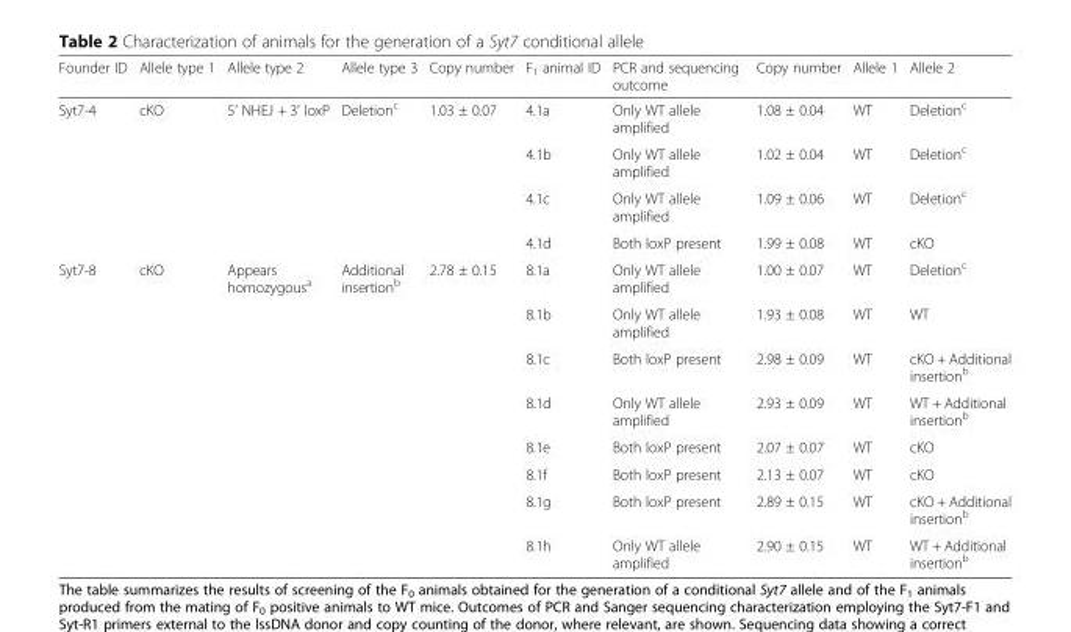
<table><thead><tr><td>Founder ID</td><td>Allele type 1</td><td>Allele type 2</td><td>Allele type 3</td><td>Copy number</td><td>F<sub>1</sub> animal ID</td><td>PCR and sequencing outcome</td><td>Copy number</td><td>Allele 1</td><td>Allele 2</td></tr></thead><tbody><tr><td rowspan="4">Syt7-4</td><td rowspan="4">cKO</td><td rowspan="4">5’ NHEJ + 3’ loxP</td><td rowspan="4">Deletion<sup>c</sup></td><td rowspan="3">1.03 ± 0.07</td><td>4.1a</td><td>Only WT allele amplified</td><td>1.08 ± 0.04</td><td>WT</td><td>Deletion<sup>c</sup></td></tr><tr><td>4.1b</td><td>Only WT allele amplified</td><td>1.02 ± 0.04</td><td>WT</td><td>Deletion<sup>c</sup></td></tr><tr><td>4.1c</td><td>Only WT allele amplified</td><td>1.09 ± 0.06</td><td>WT</td><td>Deletion<sup>c</sup></td></tr><tr><td></td><td>4.1d</td><td>Both loxP present</td><td>1.99 ± 0.08</td><td>WT</td><td>cKO</td></tr><tr><td rowspan="8">Syt7-8</td><td rowspan="8">cKO</td><td rowspan="8">Appears homozygous<sup>a</sup></td><td rowspan="8">Additional insertion<sup>b</sup></td><td rowspan="8">2.78 ± 0.15</td><td>8.1a</td><td>Only WT allele amplified</td><td>1.00 ± 0.07</td><td>WT</td><td>Deletion<sup>c</sup></td></tr><tr><td>8.1b</td><td>Only WT allele amplified</td><td>1.93 ± 0.08</td><td>WT</td><td>WT</td></tr><tr><td>8.1c</td><td>Both loxP present</td><td>2.98 ± 0.09</td><td>WT</td><td>cKO + Additional insertion<sup>b</sup></td></tr><tr><td>8.1d</td><td>Only WT allele amplified</td><td>2.93 ± 0.09</td><td>WT</td><td>WT + Additional insertion<sup>b</sup></td></tr><tr><td>8.1e</td><td>Both loxP present</td><td>2.07 ± 0.07</td><td>WT</td><td>cKO</td></tr><tr><td>8.1f</td><td>Both loxP present</td><td>2.13 ± 0.07</td><td>WT</td><td>cKO</td></tr><tr><td>8.1g</td><td>Both loxP present</td><td>2.89 ± 0.15</td><td>WT</td><td>cKO + Additional insertion<sup>b</sup></td></tr><tr><td>8.1h</td><td>Only WT allele amplified</td><td>2.90 ± 0.15</td><td>WT</td><td>WT + Additional insertion<sup>b</sup></td></tr></tbody></table>